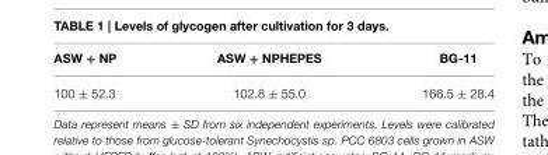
<table><thead><tr><td>ASW + NP</td><td>ASW + NPHEPES</td><td>BG-11</td></tr></thead><tbody><tr><td>100 ± 52.3</td><td>102.8 ± 55.0</td><td>166.5 ± 28.4</td></tr></tbody></table>